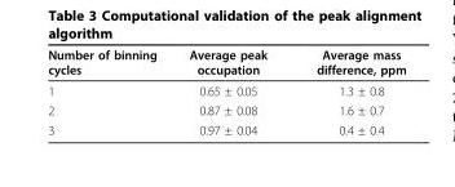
<table><thead><tr><td>Number of binning cycles</td><td>Average peak occupation</td><td>Average mass difference, ppm</td></tr></thead><tbody><tr><td>1</td><td>0.65 ± 0.05</td><td>1.3 ± 0.8</td></tr><tr><td>2</td><td>0.87 ± 0.08</td><td>1.6 ± 0.7</td></tr><tr><td>3</td><td>0.97 ± 0.04</td><td>0.4 ± 0.4</td></tr></tbody></table>